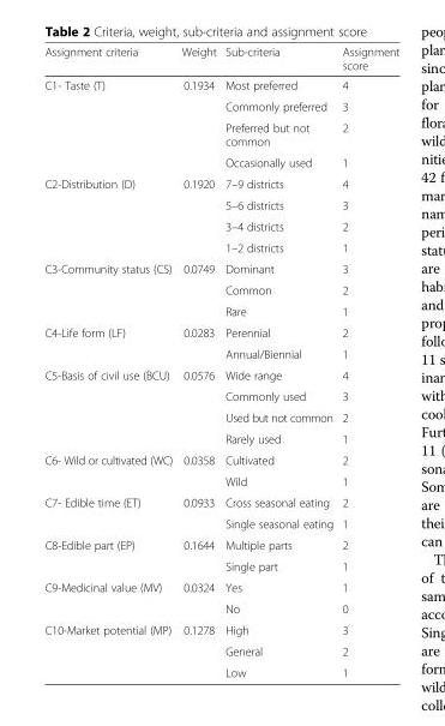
<table><thead><tr><td>Assignment criteria</td><td>Weight</td><td>Sub-criteria</td><td>Assignment score</td></tr></thead><tbody><tr><td rowspan="4">C1- Taste (T)</td><td rowspan="4">0.1934</td><td>Most preferred</td><td>4</td></tr><tr><td>Commonly preferred</td><td>3</td></tr><tr><td>Preferred but not common</td><td>2</td></tr><tr><td>Occasionally used</td><td>1</td></tr><tr><td rowspan="4">C2-Distribution (D)</td><td rowspan="4">0.1920</td><td>7–9 districts</td><td>4</td></tr><tr><td>5–6 districts</td><td>3</td></tr><tr><td>3–4 districts</td><td>2</td></tr><tr><td>1–2 districts</td><td>1</td></tr><tr><td rowspan="3">C3-Community status (CS)</td><td rowspan="3">0.0749</td><td>Dominant</td><td>3</td></tr><tr><td>Common</td><td>2</td></tr><tr><td>Rare</td><td>1</td></tr><tr><td rowspan="2">C4-Life form (LF)</td><td rowspan="2">0.0283</td><td>Perennial</td><td>2</td></tr><tr><td>Annual/Biennial</td><td>1</td></tr><tr><td rowspan="4">C5-Basis of civil use (BCU)</td><td rowspan="4">0.0576</td><td>Wide range</td><td>4</td></tr><tr><td>Commonly used</td><td>3</td></tr><tr><td>Used but not common</td><td>2</td></tr><tr><td>Rarely used</td><td>1</td></tr><tr><td rowspan="2">C6- Wild or cultivated (WC)</td><td rowspan="2">0.0358</td><td>Cultivated</td><td>2</td></tr><tr><td>Wild</td><td>1</td></tr><tr><td rowspan="2">C7- Edible time (ET)</td><td rowspan="2">0.0933</td><td>Cross seasonal eating</td><td>2</td></tr><tr><td>Single seasonal eating</td><td>1</td></tr><tr><td rowspan="2">C8-Edible part (EP)</td><td rowspan="2">0.1644</td><td>Multiple parts</td><td>2</td></tr><tr><td>Single part</td><td>1</td></tr><tr><td rowspan="2">C9-Medicinal value (MV)</td><td rowspan="2">0.0324</td><td>Yes</td><td>1</td></tr><tr><td>No</td><td>0</td></tr><tr><td rowspan="3">C10-Market potential (MP)</td><td rowspan="3">0.1278</td><td>High</td><td>3</td></tr><tr><td>General</td><td>2</td></tr><tr><td>Low</td><td>1</td></tr></tbody></table>